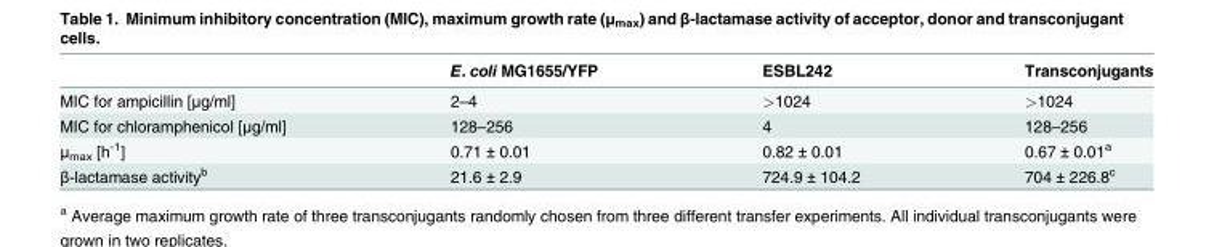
<table><thead><tr><td></td><td>E. coli MG1655/YFP</td><td>ESBL242</td><td>Transconjugants</td></tr></thead><tbody><tr><td>MIC for ampicillin [μg/ml]</td><td>2–4</td><td>&gt;1024</td><td>&gt;1024</td></tr><tr><td>MIC for chloramphenicol [μg/ml]</td><td>128–256</td><td>4</td><td>128–256</td></tr><tr><td>μ<sub>max</sub> [h<sup>-1</sup>]</td><td>0.71 ± 0.01</td><td>0.82 ± 0.01</td><td>0.67 ± 0.01<sup>a</sup></td></tr><tr><td>β-lactamase activity<sup>b</sup></td><td>21.6 ± 2.9</td><td>724.9 ± 104.2</td><td>704 ± 226.8<sup>c</sup></td></tr></tbody></table>